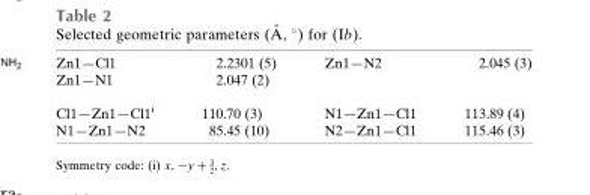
<table><tbody><tr><td>Zn1—Cl1</td><td>2.2301 (5)</td><td>Zn1—N2</td><td>2.045 (3)</td></tr><tr><td>Zn1—N1</td><td>2.047 (2)</td><td></td><td></td></tr><tr><td>Cl1—Zn1—Cl1<sup>i</sup></td><td>110.70 (3)</td><td>N1—Zn1—Cl1</td><td>113.89 (4)</td></tr><tr><td>N1—Zn1—N2</td><td>85.45 (10)</td><td>N2—Zn1—Cl1</td><td>115.46 (3)</td></tr></tbody></table>